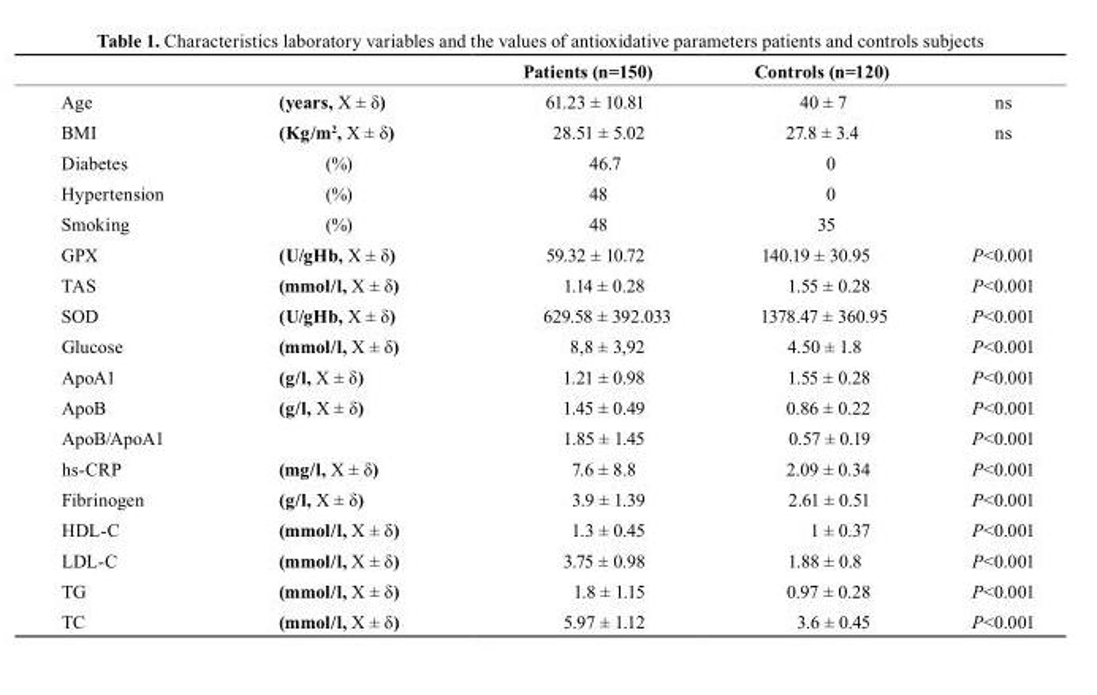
<table><thead><tr><td></td><td></td><td>Patients (n=150)</td><td>Controls (n=120)</td><td></td></tr></thead><tbody><tr><td>Age</td><td>(years, X ± δ)</td><td>61.23 ± 10.81</td><td>40 ± 7</td><td>ns</td></tr><tr><td>BMI</td><td>(Kg/m<sup>2</sup>, X ± δ)</td><td>28.51 ± 5.02</td><td>27.8 ± 3.4</td><td>ns</td></tr><tr><td>Diabetes</td><td>(%)</td><td>46.7</td><td>0</td><td></td></tr><tr><td>Hypertension</td><td>(%)</td><td>48</td><td>0</td><td></td></tr><tr><td>Smoking</td><td>(%)</td><td>48</td><td>35</td><td></td></tr><tr><td>GPX</td><td>(u/gHb, X ± δ)</td><td>59.32 ± 10.72</td><td>140.19 ± 30.95</td><td>P&lt;0.001</td></tr><tr><td>TAS</td><td>(mmol/l, X ± δ)</td><td>1.14 ± 0.28</td><td>1.55 ± 0.28</td><td>P&lt;0.001</td></tr><tr><td>SOD</td><td>(u/gHb, X ± δ)</td><td>629.58 ± 392.033</td><td>1378.47 ± 360.95</td><td>P&lt;0.001</td></tr><tr><td>Glucose</td><td>(mmol/l, X ± δ)</td><td>8,8 ± 3,92</td><td>4.50 ± 1.8</td><td>P&lt;0.001</td></tr><tr><td>ApoA1</td><td>(g/l, X ± δ)</td><td>1.21 ± 0.98</td><td>1.55 ± 0.28</td><td>P&lt;0.001</td></tr><tr><td>ApoB</td><td>(g/l, X ± δ)</td><td>1.45 ± 0.49</td><td>0.86 ± 0.22</td><td>P&lt;0.001</td></tr><tr><td>ApoB/ApoA1</td><td></td><td>1.85 ± 1.45</td><td>0.57 ± 0.19</td><td>P&lt;0.001</td></tr><tr><td>hs-CRP</td><td>(mg/l, X ± δ)</td><td>7.6 ± 8.8</td><td>2.09 ± 0.34</td><td>P&lt;0.001</td></tr><tr><td>Fibrinogen</td><td>(g/l, X ± δ)</td><td>3.9 ± 1.39</td><td>2.61 ± 0.51</td><td>P&lt;0.001</td></tr><tr><td>HDL-C</td><td>(mmol/l, X ± δ)</td><td>1.3 ± 0.45</td><td>1 ± 0.37</td><td>P&lt;0.001</td></tr><tr><td>LDL-C</td><td>(mmol/l, X ± δ)</td><td>3.75 ± 0.98</td><td>1.88 ± 0.8</td><td>P&lt;0.001</td></tr><tr><td>TG</td><td>(mmol/l, X ± δ)</td><td>1.8 ± 1.15</td><td>0.97 ± 0.28</td><td>P&lt;0.001</td></tr><tr><td>TC</td><td>(mmol/l, X ± δ)</td><td>5.97 ± 1.12</td><td>3.6 ± 0.45</td><td>P&lt;0.001</td></tr></tbody></table>